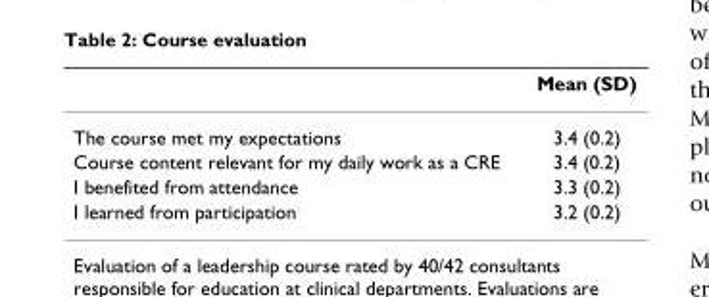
<table><thead><tr><td></td><td>Mean (SD)</td></tr></thead><tbody><tr><td>The course met my expectations</td><td>3.4 (0.2)</td></tr><tr><td>Course content relevant for my daily work as a CRE</td><td>3.4 (0.2)</td></tr><tr><td>I benefited from attendance</td><td>3.3 (0.2)</td></tr><tr><td>I learned from participation</td><td>3.2 (0.2)</td></tr></tbody></table>